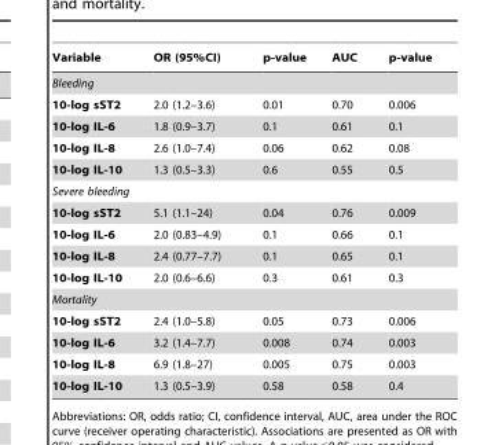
<table><thead><tr><td>Variable</td><td>OR (95%CI)</td><td>p-value</td><td>AUC</td><td>p-value</td></tr></thead><tbody><tr><td colspan="5">Bleeding</td></tr><tr><td>10-log sST2</td><td>2.0 (1.2–3.6)</td><td>0.01</td><td>0.70</td><td>0.006</td></tr><tr><td>10-log IL-6</td><td>1.8 (0.9–3.7)</td><td>0.1</td><td>0.61</td><td>0.1</td></tr><tr><td>10-log IL-8</td><td>2.6 (1.0–7.4)</td><td>0.06</td><td>0.62</td><td>0.08</td></tr><tr><td>10-log IL-10</td><td>1.3 (0.5–3.3)</td><td>0.6</td><td>0.55</td><td>0.5</td></tr><tr><td colspan="5">Severe bleeding</td></tr><tr><td>10-log sST2</td><td>5.1 (1.1–24)</td><td>0.04</td><td>0.76</td><td>0.009</td></tr><tr><td>10-log IL-6</td><td>2.0 (0.83–4.9)</td><td>0.1</td><td>0.66</td><td>0.1</td></tr><tr><td>10-log IL-8</td><td>2.4 (0.77–7.7)</td><td>0.1</td><td>0.65</td><td>0.1</td></tr><tr><td>10-log IL-10</td><td>2.0 (0.6–6.6)</td><td>0.3</td><td>0.61</td><td>0.3</td></tr><tr><td colspan="5">Mortality</td></tr><tr><td>10-log sST2</td><td>2.4 (1.0–5.8)</td><td>0.05</td><td>0.73</td><td>0.006</td></tr><tr><td>10-log IL-6</td><td>3.2 (1.4–7.7)</td><td>0.008</td><td>0.74</td><td>0.003</td></tr><tr><td>10-log IL-8</td><td>6.9 (1.8–27)</td><td>0.005</td><td>0.75</td><td>0.003</td></tr><tr><td>10-log IL-10</td><td>1.3 (0.5–3.9)</td><td>0.58</td><td>0.58</td><td>0.4</td></tr></tbody></table>